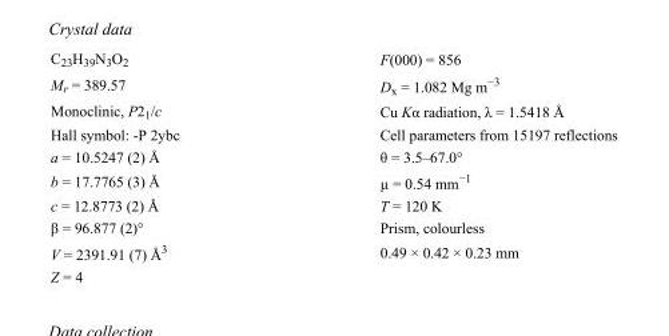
<table><tbody><tr><td>C<sub>23</sub>H<sub>39</sub>N<sub>3</sub>O<sub>2</sub></td><td>F(000) = 856</td></tr><tr><td>M<sub>r</sub> = 389.57</td><td>D<sub>x</sub> = 1.082 Mg m<sup>−3</sup></td></tr><tr><td>Monoclinic, P2<sub>1</sub>/c</td><td>Cu Kα radiation, λ = 1.5418 Å</td></tr><tr><td>Hall symbol: -P 2ybc</td><td>Cell parameters from 15197 reflections</td></tr><tr><td>a = 10.5247 (2) Å</td><td>θ = 3.5–67.0°</td></tr><tr><td>b = 17.7765 (3) Å</td><td>µ = 0.54 mm<sup>−1</sup></td></tr><tr><td>c = 12.8773 (2) Å</td><td>T = 120 K</td></tr><tr><td>β = 96.877 (2)°</td><td>Prism, colourless</td></tr><tr><td>V = 2391.91 (7) Å<sup>3</sup></td><td>0.49 × 0.42 × 0.23 mm</td></tr><tr><td>Z = 4</td><td></td></tr></tbody></table>